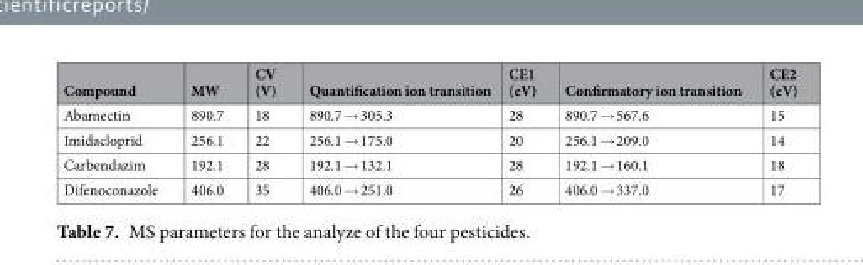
<table><thead><tr><td>Compound</td><td>MW</td><td>CV (V)</td><td>Quantification ion transition</td><td>CE1 (eV)</td><td>Confirmatory ion transition</td><td>CE2 (eV)</td></tr></thead><tbody><tr><td>Abamectin</td><td>890.7</td><td>18</td><td>890.7 → 305.3</td><td>28</td><td>890.7 → 567.6</td><td>15</td></tr><tr><td>Imidacloprid</td><td>256.1</td><td>22</td><td>256.1 → 175.0</td><td>20</td><td>256.1 → 209.0</td><td>14</td></tr><tr><td>Carbendazim</td><td>192.1</td><td>28</td><td>192.1 → 132.1</td><td>28</td><td>192.1 → 160.1</td><td>18</td></tr><tr><td>Difenoconazole</td><td>406.0</td><td>35</td><td>406.0 → 251.0</td><td>26</td><td>406.0 → 337.0</td><td>17</td></tr></tbody></table>